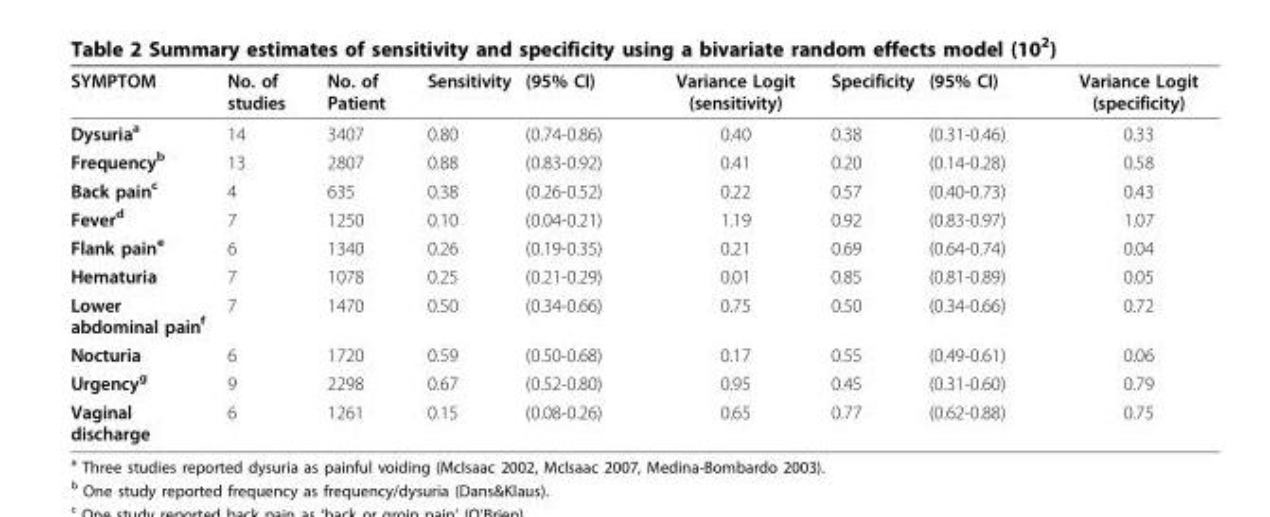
<table><thead><tr><td>SYMPTOM</td><td>No. of studies</td><td>No. of Patient</td><td>Sensitivity</td><td>(95% CI)</td><td>Variance Logit (sensitivity)</td><td>Specificity</td><td>(95% CI)</td><td>Variance Logit (specificity)</td></tr></thead><tbody><tr><td>Dysuria<sup>a</sup></td><td>14</td><td>3407</td><td>0.80</td><td>(0.74-0.86)</td><td>0.40</td><td>0.38</td><td>(0.31-0.46)</td><td>0.33</td></tr><tr><td>Frequency<sup>b</sup></td><td>13</td><td>2807</td><td>0.88</td><td>(0.83-0.92)</td><td>0.41</td><td>0.20</td><td>(0.14-0.28)</td><td>0.58</td></tr><tr><td>Back pain<sup>c</sup></td><td>4</td><td>635</td><td>0.38</td><td>(0.26-0.52)</td><td>0.22</td><td>0.57</td><td>(0.40-0.73)</td><td>0.43</td></tr><tr><td>Fever<sup>d</sup></td><td>7</td><td>1250</td><td>0.10</td><td>(0.04-0.21)</td><td>1.19</td><td>0.92</td><td>(0.83-0.97)</td><td>1.07</td></tr><tr><td>Flank pain<sup>e</sup></td><td>6</td><td>1340</td><td>0.26</td><td>(0.19-0.35)</td><td>0.21</td><td>0.69</td><td>(0.64-0.74)</td><td>0.04</td></tr><tr><td>Hematuria</td><td>7</td><td>1078</td><td>0.25</td><td>(0.21-0.29)</td><td>0.01</td><td>0.85</td><td>(0.81-0.89)</td><td>0.05</td></tr><tr><td>Lower abdominal pain<sup>f</sup></td><td>7</td><td>1470</td><td>0.50</td><td>(0.34-0.66)</td><td>0.75</td><td>0.50</td><td>(0.34-0.66)</td><td>0.72</td></tr><tr><td>Nocturia</td><td>6</td><td>1720</td><td>0.59</td><td>(0.50-0.68)</td><td>0.17</td><td>0.55</td><td>(0.49-0.61)</td><td>0.06</td></tr><tr><td>Urgency<sup>g</sup></td><td>9</td><td>2298</td><td>0.67</td><td>(0.52-0.80)</td><td>0.95</td><td>0.45</td><td>(0.31-0.60)</td><td>0.79</td></tr><tr><td>Vaginal discharge</td><td>6</td><td>1261</td><td>0.15</td><td>(0.08-0.26)</td><td>0.65</td><td>0.77</td><td>(0.62-0.88)</td><td>0.75</td></tr></tbody></table>